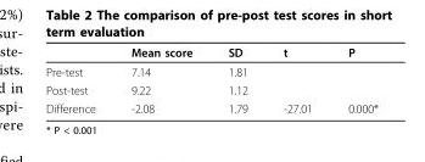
<table><thead><tr><td></td><td>Mean score</td><td>SD</td><td>t</td><td>P</td></tr></thead><tbody><tr><td>Pre-test</td><td>7.14</td><td>1.81</td><td></td><td></td></tr><tr><td>Post-test</td><td>9.22</td><td>1.12</td><td></td><td></td></tr><tr><td>Difference</td><td>-2.08</td><td>1.79</td><td>-27.01</td><td>0.000*</td></tr></tbody></table>